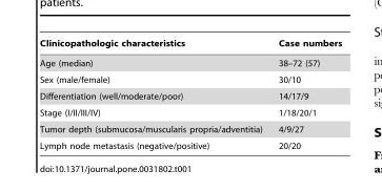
<table><thead><tr><td>Clinicopathologic characteristics</td><td>Case numbers</td></tr></thead><tbody><tr><td>Age (median)</td><td>38–72 (57)</td></tr><tr><td>Sex (male/female)</td><td>30/10</td></tr><tr><td>Differentiation (well/moderate/poor)</td><td>14/17/9</td></tr><tr><td>Stage (I/II/III/IV)</td><td>1/18/20/1</td></tr><tr><td>Tumor depth (submucosa/muscularis propria/adventitia)</td><td>4/9/27</td></tr><tr><td>Lymph node metastasis (negative/positive)</td><td>20/20</td></tr></tbody></table>